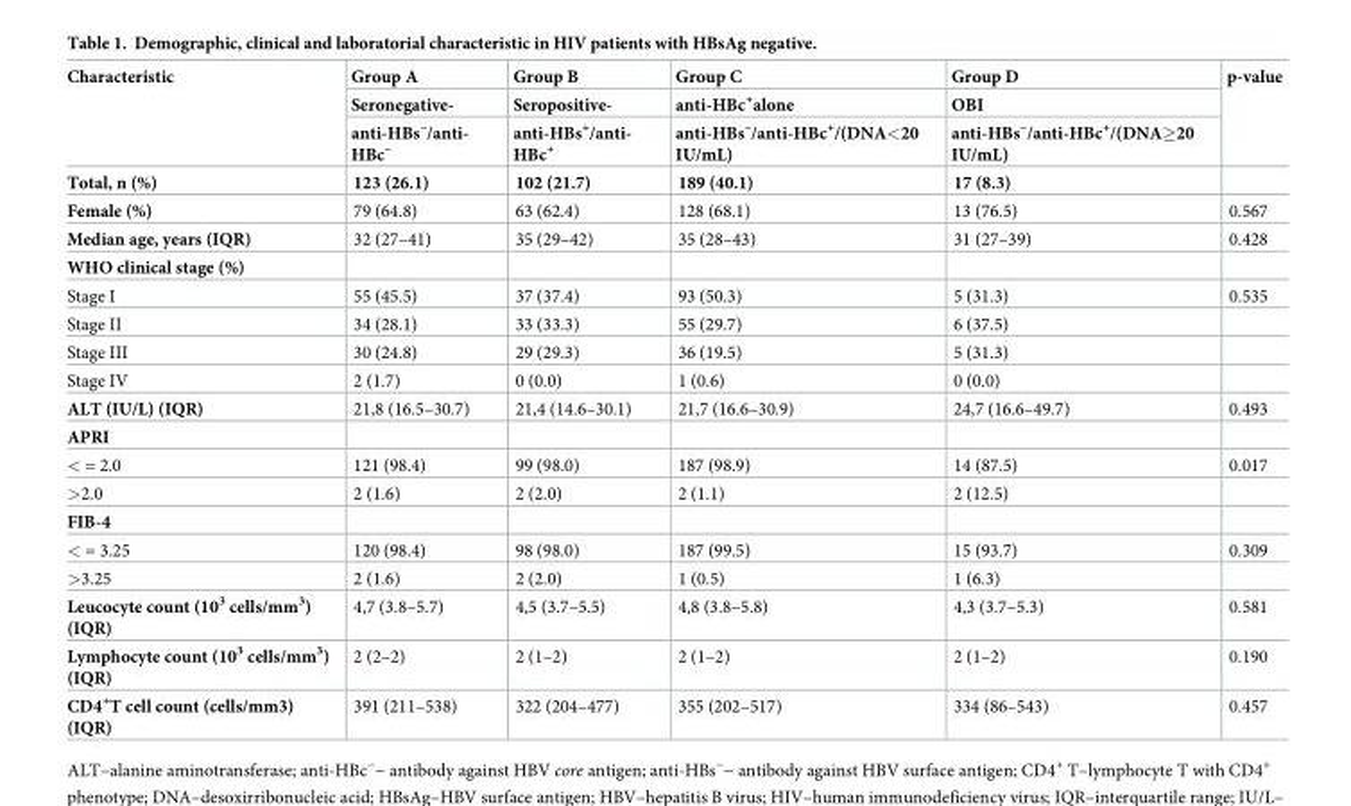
<table><thead><tr><td rowspan="3">Characteristic</td><td rowspan="3">Group A Seronegative- anti-HBs<sup>–</sup>/anti- HBc<sup>–</sup></td><td rowspan="3">Group B Seropositive- anti-HBs<sup>+</sup>/anti- HBc<sup>+</sup></td><td rowspan="3">Group C anti-HBc<sup>+</sup>alone anti-HBs<sup>–</sup>/anti-HBc<sup>+</sup>/(DNA&lt;20 IU/mL)</td><td rowspan="3">Group D OBI anti-HBs<sup>–</sup>/anti-HBc<sup>+</sup>/(DNA≥20 IU/mL)</td><td rowspan="3">p-value</td></tr><tr></tr><tr></tr></thead><tbody><tr><td>Total, n (%)</td><td>123 (26.1)</td><td>102 (21.7)</td><td>189 (40.1)</td><td>17 (8.3)</td><td></td></tr><tr><td>Female (%)</td><td>79 (64.8)</td><td>63 (62.4)</td><td>128 (68.1)</td><td>13 (76.5)</td><td>0.567</td></tr><tr><td>Median age, years (IQR)</td><td>32 (27–41)</td><td>35 (29–42)</td><td>35 (28–43)</td><td>31 (27–39)</td><td>0.428</td></tr><tr><td colspan="6">WHO clinical stage (%)</td></tr><tr><td>Stage I</td><td>55 (45.5)</td><td>37 (37.4)</td><td>93 (50.3)</td><td>5 (31.3)</td><td>0.535</td></tr><tr><td>Stage II</td><td>34 (28.1)</td><td>33 (33.3)</td><td>55 (29.7)</td><td>6 (37.5)</td><td></td></tr><tr><td>Stage III</td><td>30 (24.8)</td><td>29 (29.3)</td><td>36 (19.5)</td><td>5 (31.3)</td><td></td></tr><tr><td>Stage IV</td><td>2 (1.7)</td><td>0 (0.0)</td><td>1 (0.6)</td><td>0 (0.0)</td><td></td></tr><tr><td>ALT (IU/L) (IQR)</td><td>21,8 (16.5–30.7)</td><td>21,4 (14.6–30.1)</td><td>21,7 (16.6–30.9)</td><td>24,7 (16.6–49.7)</td><td>0.493</td></tr><tr><td colspan="6">APRI</td></tr><tr><td>&lt; = 2.0</td><td>121 (98.4)</td><td>99 (98.0)</td><td>187 (98.9)</td><td>14 (87.5)</td><td>0.017</td></tr><tr><td>&gt;2.0</td><td>2 (1.6)</td><td>2 (2.0)</td><td>2 (1.1)</td><td>2 (12.5)</td><td></td></tr><tr><td colspan="6">FIB-4</td></tr><tr><td>&lt; = 3.25</td><td>120 (98.4)</td><td>98 (98.0)</td><td>187 (99.5)</td><td>15 (93.7)</td><td>0.309</td></tr><tr><td>&gt;3.25</td><td>2 (1.6)</td><td>2 (2.0)</td><td>1 (0.5)</td><td>1 (6.3)</td><td></td></tr><tr><td>Leucocyte count (10<sup>3</sup> cells/mm<sup>3</sup>) (IQR)</td><td>4,7 (3.8–5.7)</td><td>4,5 (3.7–5.5)</td><td>4,8 (3.8–5.8)</td><td>4,3 (3.7–5.3)</td><td>0.581</td></tr><tr><td>Lymphocyte count (10<sup>3</sup> cells/mm<sup>3</sup>) (IQR)</td><td>2 (2–2)</td><td>2 (1–2)</td><td>2 (1–2)</td><td>2 (1–2)</td><td>0.190</td></tr><tr><td>CD4<sup>+</sup>T cell count (cells/mm3) (IQR)</td><td>391 (211–538)</td><td>322 (204–477)</td><td>355 (202–517)</td><td>334 (86–543)</td><td>0.457</td></tr></tbody></table>